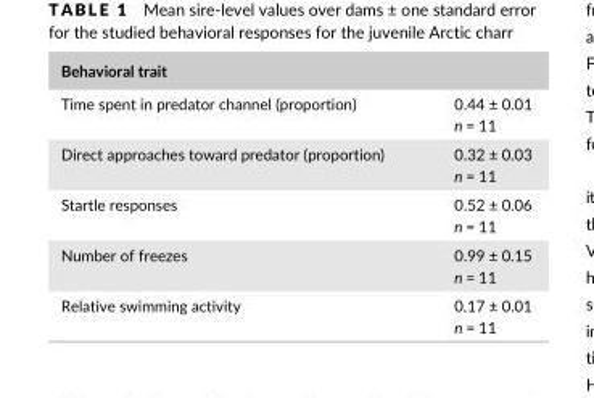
<table><thead><tr><td>Behavioral trait</td><td></td></tr></thead><tbody><tr><td>Time spent in predator channel (proportion)</td><td>0.44 ± 0.01 n = 11</td></tr><tr><td>Direct approaches toward predator (proportion)</td><td>0.32 ± 0.03 n = 11</td></tr><tr><td>Startle responses</td><td>0.52 ± 0.06 n = 11</td></tr><tr><td>Number of freezes</td><td>0.99 ± 0.15 n = 11</td></tr><tr><td>Relative swimming activity</td><td>0.17 ± 0.01 n = 11</td></tr></tbody></table>